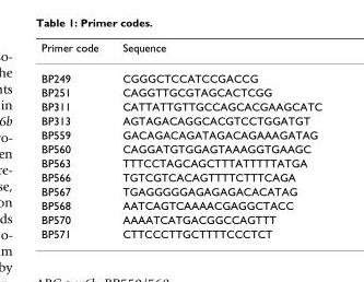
<table><thead><tr><td>Primer code</td><td>Sequence</td></tr></thead><tbody><tr><td>BP249</td><td>CGGGCTCCATCCGACCG</td></tr><tr><td>BP251</td><td>CAGGTTGCGTAGCACTCGG</td></tr><tr><td>BP311</td><td>CATTATTGTTGCCAGCACGAAGCATC</td></tr><tr><td>BP313</td><td>AGTAGACAGGCACGTCCTGGATGT</td></tr><tr><td>BP559</td><td>GACAGACAGATAGACAGAAAGATAG</td></tr><tr><td>BP560</td><td>CAGGATGTGGAGTAAAGGTGAAGC</td></tr><tr><td>BP563</td><td>TTTCCTAGCAGCTTTATTTTTATGA</td></tr><tr><td>BP566</td><td>TGTCGTCACAGTTTTCTTTCAGA</td></tr><tr><td>BP567</td><td>TGAGGGGGAGAGAGACACATAG</td></tr><tr><td>BP568</td><td>AATCAGTCAAAACGAGGCTACC</td></tr><tr><td>BP570</td><td>AAAATCATGACGGCCAGTTT</td></tr><tr><td>BP571</td><td>CTTCCCTTGCTTTTCCCTCT</td></tr></tbody></table>